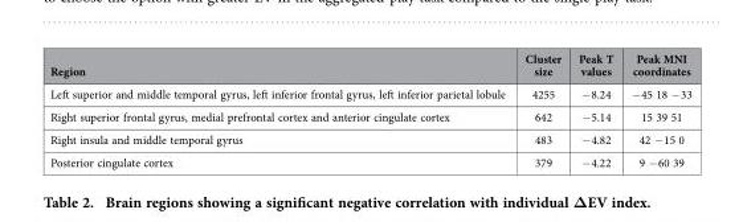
<table><thead><tr><td>Region</td><td>Cluster size</td><td>Peak T values</td><td>Peak MNI coordinates</td></tr></thead><tbody><tr><td>Left superior and middle temporal gyrus, left inferior frontal gyrus, left inferior parietal lobule</td><td>4255</td><td>− 8.24</td><td>− 45 18 − 33</td></tr><tr><td>Right superior frontal gyrus, medial prefrontal cortex and anterior cingulate cortex</td><td>642</td><td>− 5.14</td><td>15 39 51</td></tr><tr><td>Right insula and middle temporal gyrus</td><td>483</td><td>− 4.82</td><td>42 − 15 0</td></tr><tr><td>Posterior cingulate cortex</td><td>379</td><td>− 4.22</td><td>9 − 60 39</td></tr></tbody></table>